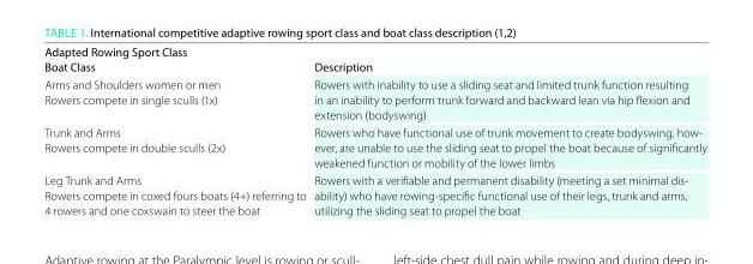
<table><thead><tr><td>adapted Rowing Sport Class Boat Class</td><td>Description</td></tr></thead><tbody><tr><td>Arms and Shoulders women or men Rowers compete in single sculls (1x)</td><td>Rowers with inability to use a sliding seat and limited trunk function resulting in an inability to perform trunk forward and backward lean via hip flexion and extension (bodyswing)</td></tr><tr><td>Trunk and Arms Rowers compete in double sculls (2x)</td><td>Rowers who have functional use of trunk movement to create bodyswing, how- ever, are unable to use the sliding seat to propel the boat because of significantly weakened function or mobility of the lower limbs</td></tr><tr><td>Leg Trunk and Arms Rowers compete in coxed fours boats (4+) referring to 4 rowers and one coxswain to steer the boat</td><td>Rowers with a verifiable and permanent disability (meeting a set minimal dis- ability) who have rowing-specific functional use of their legs, trunk and arms, utilizing the sliding seat to propel the boat</td></tr></tbody></table>